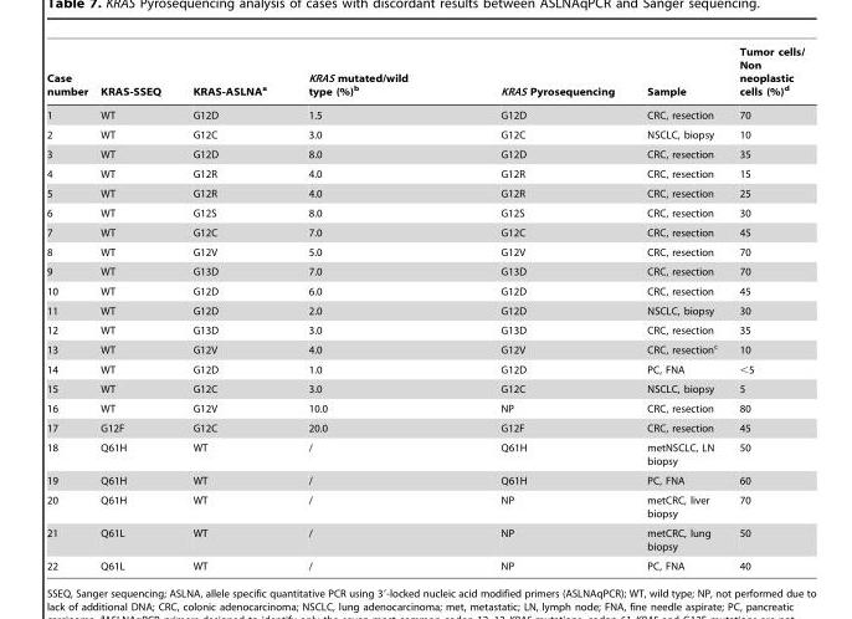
<table><thead><tr><td>Case number</td><td>KRAS-SSEQ</td><td>KRAS-ASLNA<sup>a</sup></td><td>KRAS mutated/wild type (%)<sup>b</sup></td><td>KRAS Pyrosequencing</td><td>Sample</td><td>Tumor cells/ Non neoplastic cells (%)<sup>d</sup></td></tr></thead><tbody><tr><td>1</td><td>WT</td><td>G12D</td><td>1.5</td><td>G12D</td><td>CRC, resection</td><td>70</td></tr><tr><td>2</td><td>WT</td><td>G12C</td><td>3.0</td><td>G12C</td><td>NSCLC, biopsy</td><td>10</td></tr><tr><td>3</td><td>WT</td><td>G12D</td><td>8.0</td><td>G12D</td><td>CRC, resection</td><td>35</td></tr><tr><td>4</td><td>WT</td><td>G12R</td><td>4.0</td><td>G12R</td><td>CRC, resection</td><td>15</td></tr><tr><td>5</td><td>WT</td><td>G12R</td><td>4.0</td><td>G12R</td><td>CRC, resection</td><td>25</td></tr><tr><td>6</td><td>WT</td><td>G12S</td><td>8.0</td><td>G12S</td><td>CRC, resection</td><td>30</td></tr><tr><td>7</td><td>WT</td><td>G12C</td><td>7.0</td><td>G12C</td><td>CRC, resection</td><td>45</td></tr><tr><td>8</td><td>WT</td><td>G12V</td><td>5.0</td><td>G12V</td><td>CRC, resection</td><td>70</td></tr><tr><td>9</td><td>WT</td><td>G13D</td><td>7.0</td><td>G13D</td><td>CRC, resection</td><td>70</td></tr><tr><td>10</td><td>WT</td><td>G12D</td><td>6.0</td><td>G12D</td><td>CRC, resection</td><td>45</td></tr><tr><td>11</td><td>WT</td><td>G12D</td><td>2.0</td><td>G12D</td><td>NSCLC, biopsy</td><td>30</td></tr><tr><td>12</td><td>WT</td><td>G13D</td><td>3.0</td><td>G13D</td><td>CRC, resection</td><td>35</td></tr><tr><td>13</td><td>WT</td><td>G12V</td><td>4.0</td><td>G12V</td><td>CRC, resection<sup>c</sup></td><td>10</td></tr><tr><td>14</td><td>WT</td><td>G12D</td><td>1.0</td><td>G12D</td><td>PC, FNA</td><td>&lt;5</td></tr><tr><td>15</td><td>WT</td><td>G12C</td><td>3.0</td><td>G12C</td><td>NSCLC, biopsy</td><td>5</td></tr><tr><td>16</td><td>WT</td><td>G12V</td><td>10.0</td><td>NP</td><td>CRC, resection</td><td>80</td></tr><tr><td>17</td><td>G12F</td><td>G12C</td><td>20.0</td><td>G12F</td><td>CRC, resection</td><td>45</td></tr><tr><td>18</td><td>Q61H</td><td>WT</td><td>/</td><td>Q61H</td><td>metNSCLC, LN biopsy</td><td>50</td></tr><tr><td>19</td><td>Q61H</td><td>WT</td><td>/</td><td>Q61H</td><td>PC, FNA</td><td>60</td></tr><tr><td>20</td><td>Q61H</td><td>WT</td><td>/</td><td>NP</td><td>metCRC, liver biopsy</td><td>70</td></tr><tr><td>21</td><td>Q61L</td><td>WT</td><td>/</td><td>NP</td><td>metCRC, lung biopsy</td><td>50</td></tr><tr><td>22</td><td>Q61L</td><td>WT</td><td>/</td><td>NP</td><td>PC, FNA</td><td>40</td></tr></tbody></table>